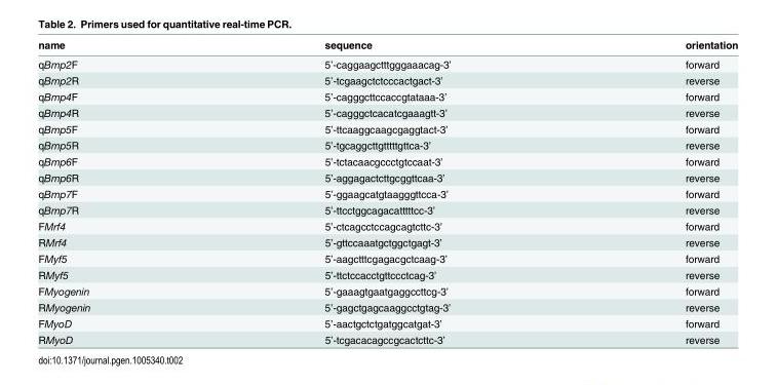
<table><thead><tr><td>name</td><td>sequence</td><td>orientation</td></tr></thead><tbody><tr><td>qBmp2F</td><td>5’-caggaagctttgggaaacag-3’</td><td>forward</td></tr><tr><td>qBmp2R</td><td>5’-tcgaagctctcccactgact-3’</td><td>reverse</td></tr><tr><td>qBmp4F</td><td>5’-cagggcttccaccgtataaa-3’</td><td>forward</td></tr><tr><td>qBmp4R</td><td>5’-cagggctcacatcgaaagtt-3’</td><td>reverse</td></tr><tr><td>qBmp5F</td><td>5’-ttcaaggcaagcgaggtact-3’</td><td>forward</td></tr><tr><td>qBmp5R</td><td>5’-tgcaggcttgtttttgttca-3’</td><td>reverse</td></tr><tr><td>qBmp6F</td><td>5’-tctacaacgccctgtccaat-3’</td><td>forward</td></tr><tr><td>qBmp6R</td><td>5’-aggagactcttgcggttcaa-3’</td><td>reverse</td></tr><tr><td>qBmp7F</td><td>5’-ggaagcatgtaagggttcca-3’</td><td>forward</td></tr><tr><td>qBmp7R</td><td>5’-ttcctggcagacatttttcc-3’</td><td>reverse</td></tr><tr><td>FMrf4</td><td>5’-ctcagcctccagcagtcttc-3’</td><td>forward</td></tr><tr><td>RMrf4</td><td>5’-gttccaaatgctggctgagt-3’</td><td>reverse</td></tr><tr><td>FMyf5</td><td>5’-aagctttcgagacgctcaag-3’</td><td>forward</td></tr><tr><td>RMyf5</td><td>5’-ttctccacctgttccctcag-3’</td><td>reverse</td></tr><tr><td>FMyogenin</td><td>5’-gaaagtgaatgaggccttcg-3’</td><td>forward</td></tr><tr><td>RMyogenin</td><td>5’-gagctgagcaaggcctgtag-3’</td><td>reverse</td></tr><tr><td>FMyoD</td><td>5’-aactgctctgatggcatgat-3’</td><td>forward</td></tr><tr><td>RMyoD</td><td>5’-tcgacacagccgcactcttc-3’</td><td>reverse</td></tr></tbody></table>